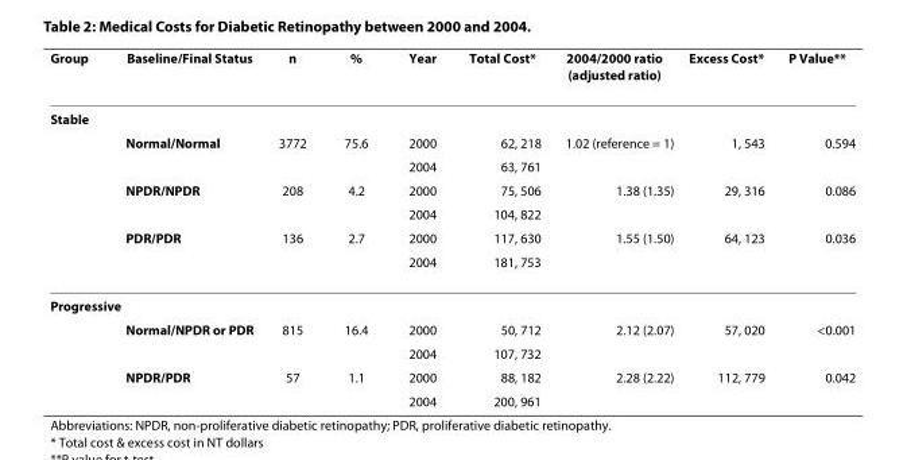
<table><thead><tr><td>Group</td><td>Baseline/Final Status</td><td>n</td><td>%</td><td>Year</td><td>Total Cost*</td><td>2004/2000 ratio (adjusted ratio)</td><td>Excess Cost*</td><td>P Value**</td></tr></thead><tbody><tr><td colspan="9">Stable</td></tr><tr><td></td><td>Normal/Normal</td><td>3772</td><td>75.6</td><td>2000</td><td>62, 218</td><td>1.02 (reference = 1)</td><td>1, 543</td><td>0.594</td></tr><tr><td></td><td></td><td></td><td></td><td>2004</td><td>63, 761</td><td></td><td></td><td></td></tr><tr><td></td><td>NPDR/NPDR</td><td>208</td><td>4.2</td><td>2000</td><td>75, 506</td><td>1.38 (1.35)</td><td>29, 316</td><td>0.086</td></tr><tr><td></td><td></td><td></td><td></td><td>2004</td><td>104, 822</td><td></td><td></td><td></td></tr><tr><td></td><td>PDR/PDR</td><td>136</td><td>2.7</td><td>2000</td><td>117, 630</td><td>1.55 (1.50)</td><td>64, 123</td><td>0.036</td></tr><tr><td></td><td></td><td></td><td></td><td>2004</td><td>181, 753</td><td></td><td></td><td></td></tr><tr><td colspan="9">Progressive</td></tr><tr><td></td><td>Normal/NPDR or PDR</td><td>815</td><td>16.4</td><td>2000</td><td>50, 712</td><td>2.12 (2.07)</td><td>57, 020</td><td>&lt;0.001</td></tr><tr><td></td><td></td><td></td><td></td><td>2004</td><td>107, 732</td><td></td><td></td><td></td></tr><tr><td></td><td>NPDR/PDR</td><td>57</td><td>1.1</td><td>2000</td><td>88, 182</td><td>2.28 (2.22)</td><td>112, 779</td><td>0.042</td></tr><tr><td></td><td></td><td></td><td></td><td>2004</td><td>200, 961</td><td></td><td></td><td></td></tr></tbody></table>